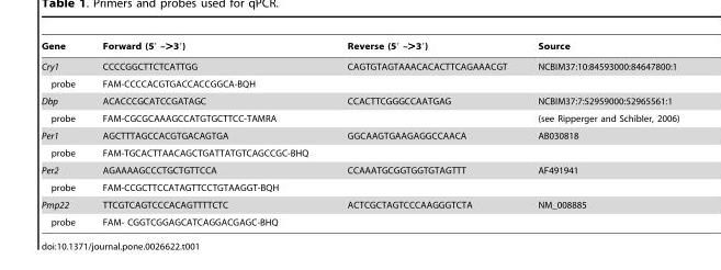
<table><thead><tr><td>Gene</td><td>Forward (5′ –&gt;3′)</td><td>Reverse (5′ –&gt;3′)</td><td>Source</td></tr></thead><tbody><tr><td>Cry1</td><td>CCCCGGCTTCTCATTGG</td><td>CAGTGTAGTAAACACACTTCAGAAACGT</td><td>NCBIM37:10:84593000:84647800:1</td></tr><tr><td>probe</td><td>FAM-CCCCACGTGACCACCGGCA-BQH</td><td></td><td></td></tr><tr><td>Dbp</td><td>ACACCCGCATCCGATAGC</td><td>CCACTTCGGGCCAATGAG</td><td>NCBIM37:7:52959000:52965561:1</td></tr><tr><td>probe</td><td>FAM-CGCGCAAAGCCATGTGCTTCC-TAMRA</td><td></td><td>(see Ripperger and Schibler, 2006)</td></tr><tr><td>Per1</td><td>AGCTTTAGCCACGTGACAGTGA</td><td>GGCAAGTGAAGAGGCCAACA</td><td>AB030818</td></tr><tr><td>probe</td><td>FAM-TGCACTTAACAGCTGATTATGTCAGCCGC-BHQ</td><td></td><td></td></tr><tr><td>Per2</td><td>AGAAAAGCCCTGCTGTTCCA</td><td>CCAAATGCGGTGGTGTAGTTT</td><td>AF491941</td></tr><tr><td>probe</td><td>FAM-CCGCTTCCATAGTTCCTGTAAGGT-BQH</td><td></td><td></td></tr><tr><td>Pmp22</td><td>TTCGTCAGTCCCACAGTTTTCTC</td><td>ACTCGCTAGTCCCAAGGGTCTA</td><td>NM_008885</td></tr><tr><td>probe</td><td>FAM- CGGTCGGAGCATCAGGACGAGC-BHQ</td><td></td><td></td></tr></tbody></table>